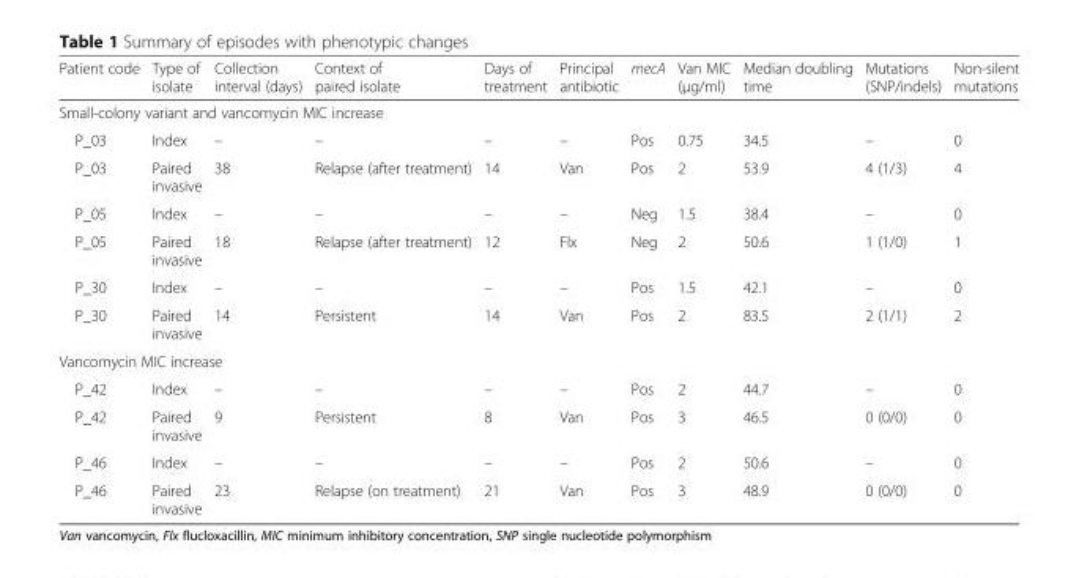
<table><thead><tr><td>Patient code</td><td>Type of isolate</td><td>Collection interval (days)</td><td>Context of paired isolate</td><td>Days of treatment</td><td>Principal antibiotic</td><td>mecA</td><td>Van MIC (μg/ml)</td><td>Median doubling time</td><td>Mutations (SNP/indels)</td><td>Non-silent mutations</td></tr></thead><tbody><tr><td colspan="11">Small-colony variant and vancomycin MIC increase</td></tr><tr><td>P_03</td><td>Index</td><td>–</td><td>–</td><td>–</td><td>–</td><td>Pos</td><td>0.75</td><td>34.5</td><td>–</td><td>0</td></tr><tr><td>P_03</td><td>Paired invasive</td><td>38</td><td>Relapse (after treatment)</td><td>14</td><td>Van</td><td>Pos</td><td>2</td><td>53.9</td><td>4 (1/3)</td><td>4</td></tr><tr><td>P_05</td><td>Index</td><td>–</td><td>–</td><td>–</td><td>–</td><td>Neg</td><td>1.5</td><td>38.4</td><td>–</td><td>0</td></tr><tr><td>P_05</td><td>Paired invasive</td><td>18</td><td>Relapse (after treatment)</td><td>12</td><td>Flx</td><td>Neg</td><td>2</td><td>50.6</td><td>1 (1/0)</td><td>1</td></tr><tr><td>P_30</td><td>Index</td><td>–</td><td>–</td><td>–</td><td>–</td><td>Pos</td><td>1.5</td><td>42.1</td><td>–</td><td>0</td></tr><tr><td>P_30</td><td>Paired invasive</td><td>14</td><td>Persistent</td><td>14</td><td>Van</td><td>Pos</td><td>2</td><td>83.5</td><td>2 (1/1)</td><td>2</td></tr><tr><td colspan="11">Vancomycin MIC increase</td></tr><tr><td>P_42</td><td>Index</td><td>–</td><td>–</td><td>–</td><td>–</td><td>Pos</td><td>2</td><td>44.7</td><td>–</td><td>0</td></tr><tr><td>P_42</td><td>Paired invasive</td><td>9</td><td>Persistent</td><td>8</td><td>Van</td><td>Pos</td><td>3</td><td>46.5</td><td>0 (0/0)</td><td>0</td></tr><tr><td>P_46</td><td>Index</td><td>–</td><td>–</td><td>–</td><td>–</td><td>Pos</td><td>2</td><td>50.6</td><td>–</td><td>0</td></tr><tr><td>P_46</td><td>Paired invasive</td><td>23</td><td>Relapse (on treatment)</td><td>21</td><td>Van</td><td>Pos</td><td>3</td><td>48.9</td><td>0 (0/0)</td><td>0</td></tr></tbody></table>